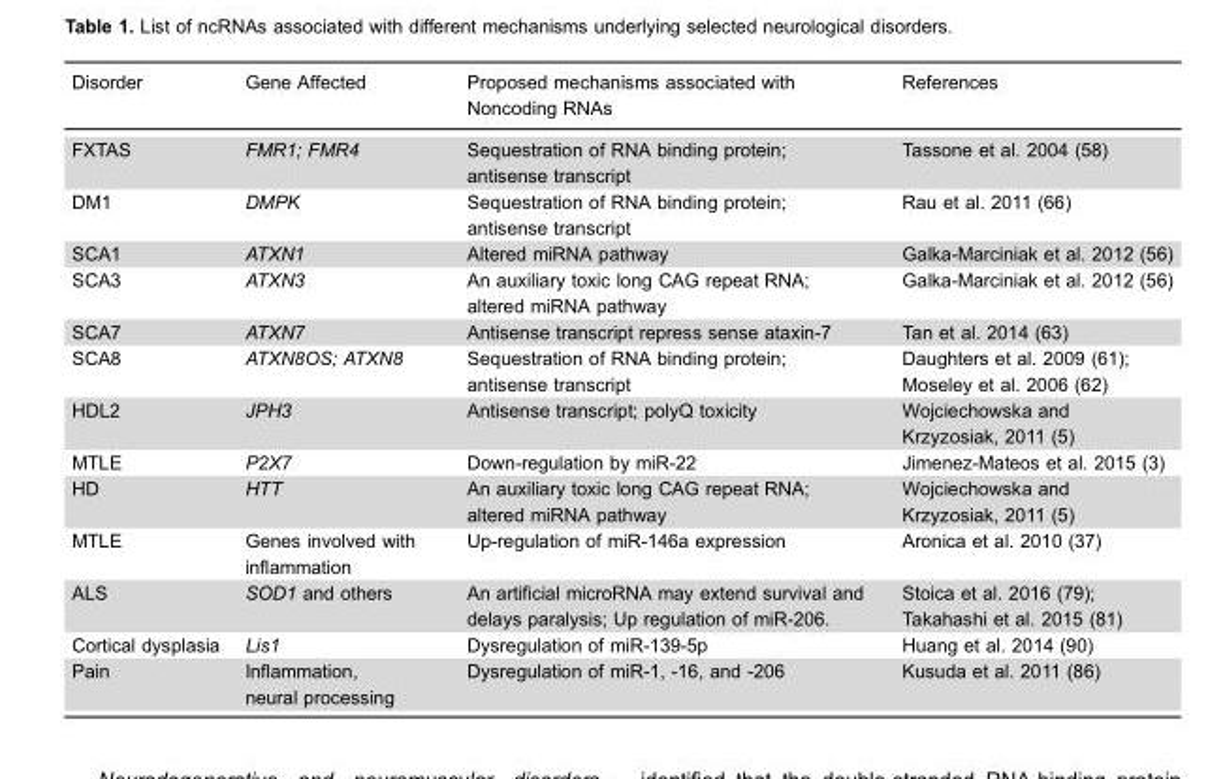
<table><thead><tr><td>Disorder</td><td>Gene Affected</td><td>Proposed mechanisms associated with Noncoding RNAs</td><td>References</td></tr></thead><tbody><tr><td>FXTAS</td><td>FMR1; FMR4</td><td>Sequestration of RNA binding protein; antisense transcript</td><td>Tassone et al. 2004 (58)</td></tr><tr><td>DM1</td><td>DMPK</td><td>Sequestration of RNA binding protein; antisense transcript</td><td>Rau et al. 2011 (66)</td></tr><tr><td>SCA1</td><td>ATXN1</td><td>Altered miRNA pathway</td><td>Galka-Marciniak et al. 2012</td></tr><tr><td>SCA3</td><td>ATXN3</td><td>An auxiliary toxic long CAG repeat RNA; altered miRNA pathway</td><td>Galka-Marciniak et al. 2012</td></tr><tr><td>SCA7</td><td>ATXN7</td><td>Antisense transcript repress sense ataxin-7</td><td>Tan et al. 2014 (63)</td></tr><tr><td>SCA8</td><td>ATXN8OS; ATXN8</td><td>Sequestration of RNA binding protein; antisense transcript</td><td>Daughters et al. 2009 (61); Moseley et al. 2006 (62)</td></tr><tr><td>HDL2</td><td>JPH3</td><td>Antisense transcript; polyQ toxicity</td><td>Wojciechowska and Krzyzosiak, 2011 (5)</td></tr><tr><td>MTLE</td><td>P2X7</td><td>Down-regulation by miR-22</td><td>Jimenez-Mateos et al. 2015</td></tr><tr><td>HD</td><td>HTT</td><td>An auxiliary toxic long CAG repeat RNA; altered miRNA pathway</td><td>Wojciechowska and Krzyzosiak, 2011 (5)</td></tr><tr><td>MTLE</td><td>Genes involved with inflammation</td><td>Up-regulation of miR-146a expression</td><td>Aronica et al. 2010 (37)</td></tr><tr><td>ALS</td><td>SOD1 and others</td><td>An artificial microRNA may extend survival and delays paralysis; Up regulation of miR-206.</td><td>Stoica et al. 2016 (79); Takahashi et al. 2015 (81)</td></tr><tr><td>Cortical dysplasia</td><td>Lis1</td><td>Dysregulation of miR-139-5p</td><td>Huang et al. 2014 (90)</td></tr><tr><td>Pain</td><td>Inflammation, neural processing</td><td>Dysregulation of miR-1, -16, and -206</td><td>Kusuda et al. 2011 (86)</td></tr></tbody></table>